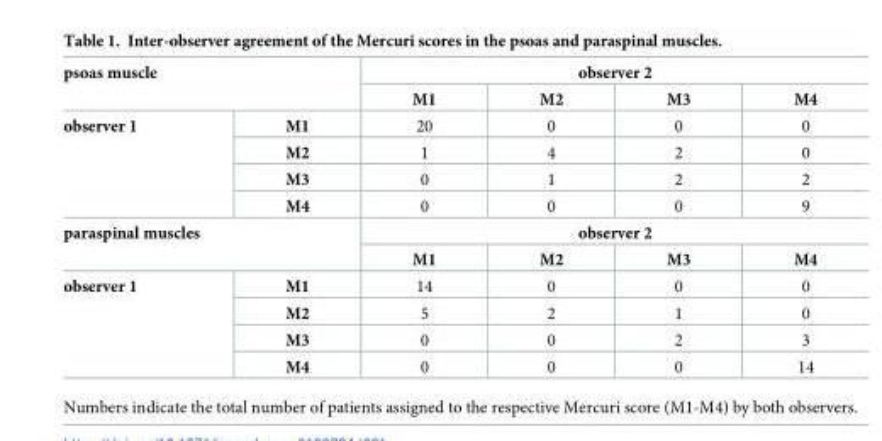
<table><tbody><tr><td rowspan="2" colspan="2">psoas muscle</td><td colspan="4">observer 2</td></tr><tr><td>M1</td><td>M2</td><td>M3</td><td>M4</td></tr><tr><td rowspan="4">observer 1</td><td>M1</td><td>20</td><td>0</td><td>0</td><td>0</td></tr><tr><td>M2</td><td>1</td><td>4</td><td>2</td><td>0</td></tr><tr><td>M3</td><td>0</td><td>1</td><td>2</td><td>2</td></tr><tr><td>M4</td><td>0</td><td>0</td><td>0</td><td>9</td></tr><tr><td rowspan="2" colspan="2">paraspinal muscles</td><td colspan="4">observer 2</td></tr><tr><td>M1</td><td>M2</td><td>M3</td><td>M4</td></tr><tr><td rowspan="4">observer 1</td><td>M1</td><td>14</td><td>0</td><td>0</td><td>0</td></tr><tr><td>M2</td><td>5</td><td>2</td><td>1</td><td>0</td></tr><tr><td>M3</td><td>0</td><td>0</td><td>2</td><td>3</td></tr><tr><td>M4</td><td>0</td><td>0</td><td>0</td><td>14</td></tr></tbody></table>